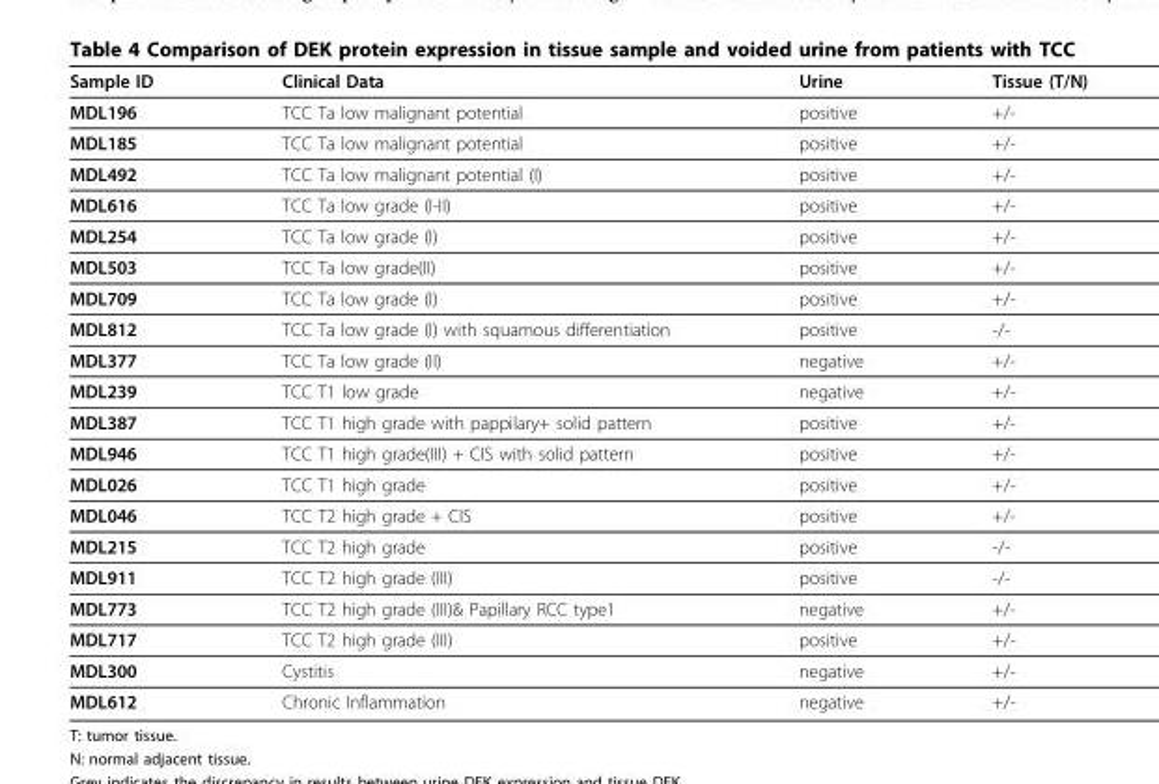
<table><thead><tr><td>Sample ID</td><td>Clinical Data</td><td>Urine</td><td>Tissue (T/N)</td></tr></thead><tbody><tr><td>MDL196</td><td>TCC Ta low malignant potential</td><td>positive</td><td>+/-</td></tr><tr><td>MDL185</td><td>TCC Ta low malignant potential</td><td>positive</td><td>+/-</td></tr><tr><td>MDL492</td><td>TCC Ta low malignant potential (I)</td><td>positive</td><td>+/-</td></tr><tr><td>MDL616</td><td>TCC Ta low grade (I-II)</td><td>positive</td><td>+/-</td></tr><tr><td>MDL254</td><td>TCC Ta low grade (I)</td><td>positive</td><td>+/-</td></tr><tr><td>MDL503</td><td>TCC Ta low grade(II)</td><td>positive</td><td>+/-</td></tr><tr><td>MDL709</td><td>TCC Ta low grade (I)</td><td>positive</td><td>+/-</td></tr><tr><td>MDL812</td><td>TCC Ta low grade (I) with squamous differentiation</td><td>positive</td><td>-/-</td></tr><tr><td>MDL377</td><td>TCC Ta low grade (II)</td><td>negative</td><td>+/-</td></tr><tr><td>MDL239</td><td>TCC T1 low grade</td><td>negative</td><td>+/-</td></tr><tr><td>MDL387</td><td>TCC T1 high grade with pappilary+ solid pattern</td><td>positive</td><td>+/-</td></tr><tr><td>MDL946</td><td>TCC T1 high grade(III) + CIS with solid pattern</td><td>positive</td><td>+/-</td></tr><tr><td>MDL026</td><td>TCC T1 high grade</td><td>positive</td><td>+/-</td></tr><tr><td>MDL046</td><td>TCC T2 high grade + CIS</td><td>positive</td><td>+/-</td></tr><tr><td>MDL215</td><td>TCC T2 high grade</td><td>positive</td><td>-/-</td></tr><tr><td>MDL911</td><td>TCC T2 high grade (III)</td><td>positive</td><td>-/-</td></tr><tr><td>MDL773</td><td>TCC T2 high grade (III)&amp; Papillary RCC type1</td><td>negative</td><td>+/-</td></tr><tr><td>MDL717</td><td>TCC T2 high grade (III)</td><td>positive</td><td>+/-</td></tr><tr><td>MDL300</td><td>Cystitis</td><td>negative</td><td>+/-</td></tr><tr><td>MDL612</td><td>Chronic Inflammation</td><td>negative</td><td>+/-</td></tr></tbody></table>